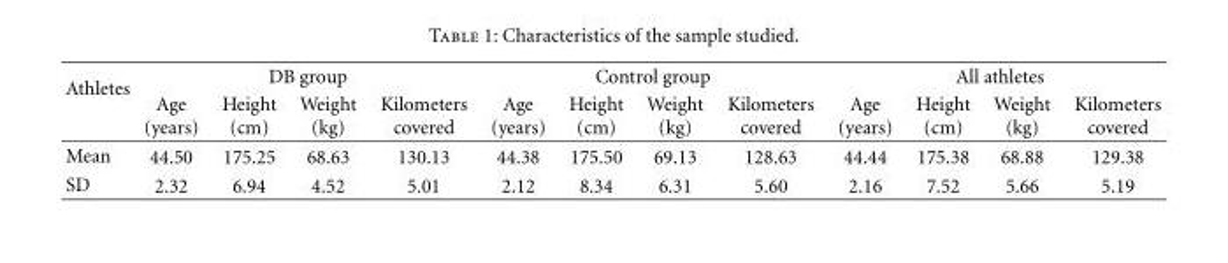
<table><thead><tr><td rowspan="2">Athletes</td><td colspan="4">DB group</td><td colspan="4">Control group</td><td colspan="4">All athletes</td></tr><tr><td>Age (years)</td><td>Height (cm)</td><td>Weight (kg)</td><td>Kilometers covered</td><td>Age (years)</td><td>Height (cm)</td><td>Weight (kg)</td><td>Kilometers covered</td><td>Age (years)</td><td>Height (cm)</td><td>Weight (kg)</td><td>Kilometers covered</td></tr></thead><tbody><tr><td>Mean</td><td>44.50</td><td>175.25</td><td>68.63</td><td>130.13</td><td>44.38</td><td>175.50</td><td>69.13</td><td>128.63</td><td>44.44</td><td>175.38</td><td>68.88</td><td>129.38</td></tr><tr><td>SD</td><td>2.32</td><td>6.94</td><td>4.52</td><td>5.01</td><td>2.12</td><td>8.34</td><td>6.31</td><td>5.60</td><td>2.16</td><td>7.52</td><td>5.66</td><td>5.19</td></tr></tbody></table>